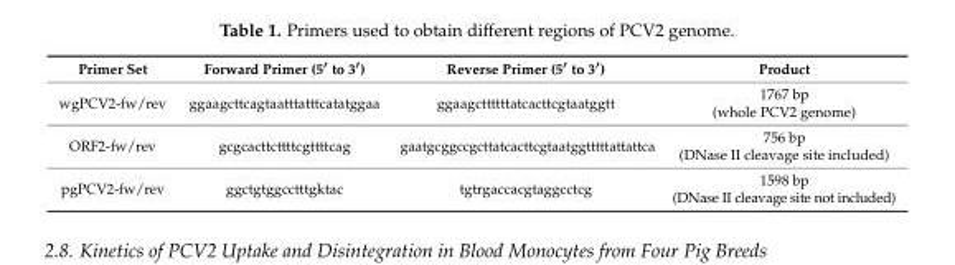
<table><tbody><tr><td>Primer Set</td><td>Forward Primer (5′ to 3′)</td><td>Reverse Primer (5′ to 3′)</td><td>Product</td></tr><tr><td>wgPCV2-fw/rev</td><td>ggaagcttcagtaatttatttcatatggaa</td><td>ggaagcttttttatcacttcgtaatggtt</td><td>1767 bp (whole PCV2 genome)</td></tr><tr><td>ORF2-fw/rev</td><td>gcgcacttcttttcgttttcag</td><td>gaatgcggccgcttatcacttcgtaatggtttttattattca</td><td>756 bp (DNase II cleavage site included)</td></tr><tr><td>pgPCV2-fw/rev</td><td>ggctgtggcctttgktac</td><td>tgtrgaccacgtaggcctcg</td><td>1598 bp (DNase II cleavage site not included)</td></tr></tbody></table>